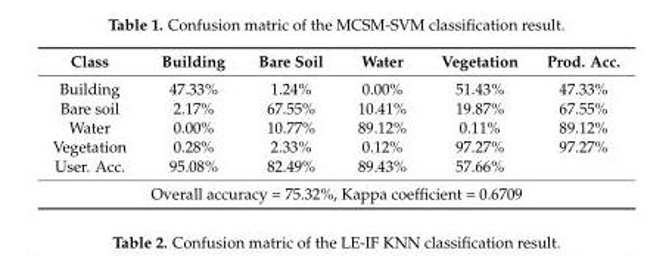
<table><thead><tr><td>Class</td><td>Building</td><td>Bare Soil</td><td>Water</td><td>Vegetation</td><td>Prod. Acc.</td></tr></thead><tbody><tr><td>Building</td><td>47.33%</td><td>1.24%</td><td>0.00%</td><td>51.43%</td><td>47.33%</td></tr><tr><td>Bare soil</td><td>2.17%</td><td>67.55%</td><td>10.41%</td><td>19.87%</td><td>67.55%</td></tr><tr><td>Water</td><td>0.00%</td><td>10.77%</td><td>89.12%</td><td>0.11%</td><td>89.12%</td></tr><tr><td>Vegetation</td><td>0.28%</td><td>2.33%</td><td>0.12%</td><td>97.27%</td><td>97.27%</td></tr><tr><td>User. Acc.</td><td>95.08%</td><td>82.49%</td><td>89.43%</td><td>57.66%</td><td></td></tr><tr><td colspan="6">Overall accuracy = 75.32%, Kappa coefficient = 0.6709</td></tr></tbody></table>